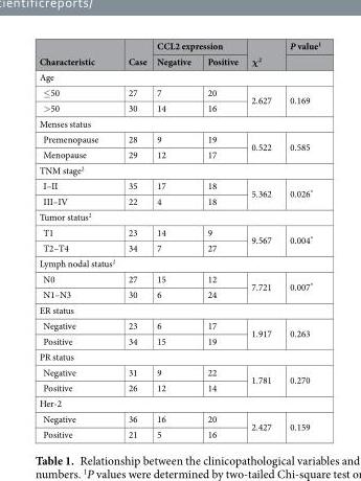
<table><thead><tr><td rowspan="2">Characteristic</td><td rowspan="2">Case</td><td colspan="2">CCL2 expression</td><td rowspan="2">χ<sup>2</sup></td><td rowspan="2">P value<sup>1</sup></td></tr><tr><td>Negative</td><td>Positive</td></tr></thead><tbody><tr><td colspan="6">Age</td></tr><tr><td>≤50</td><td>27</td><td>7</td><td>20</td><td rowspan="2">2.627</td><td rowspan="2">0.169</td></tr><tr><td>&gt;50</td><td>30</td><td>14</td><td>16</td></tr><tr><td colspan="6">Menses status</td></tr><tr><td>Premenopause</td><td>28</td><td>9</td><td>19</td><td rowspan="2">0.522</td><td rowspan="2">0.585</td></tr><tr><td>Menopause</td><td>29</td><td>12</td><td>17</td></tr><tr><td colspan="6">TNM stage<sup>2</sup></td></tr><tr><td>I–II</td><td>35</td><td>17</td><td>18</td><td rowspan="2">5.362</td><td rowspan="2">0.026*</td></tr><tr><td>III–IV</td><td>22</td><td>4</td><td>18</td></tr><tr><td colspan="6">Tumor status<sup>2</sup></td></tr><tr><td>T1</td><td>23</td><td>14</td><td>9</td><td rowspan="2">9.567</td><td rowspan="2">0.004*</td></tr><tr><td>T2–T4</td><td>34</td><td>7</td><td>27</td></tr><tr><td colspan="6">Lymph nodal status<sup>2</sup></td></tr><tr><td>N0</td><td>27</td><td>15</td><td>12</td><td rowspan="2">7.721</td><td rowspan="2">0.007*</td></tr><tr><td>N1–N3</td><td>30</td><td>6</td><td>24</td></tr><tr><td colspan="6">ER status</td></tr><tr><td>Negative</td><td>23</td><td>6</td><td>17</td><td rowspan="2">1.917</td><td rowspan="2">0.263</td></tr><tr><td>Positive</td><td>34</td><td>15</td><td>19</td></tr><tr><td colspan="6">PR status</td></tr><tr><td>Negative</td><td>31</td><td>9</td><td>22</td><td rowspan="2">1.781</td><td rowspan="2">0.270</td></tr><tr><td>Positive</td><td>26</td><td>12</td><td>14</td></tr><tr><td colspan="6">Her-2</td></tr><tr><td>Negative</td><td>36</td><td>16</td><td>20</td><td rowspan="2">2.427</td><td rowspan="2">0.159</td></tr><tr><td>Positive</td><td>21</td><td>5</td><td>16</td></tr></tbody></table>